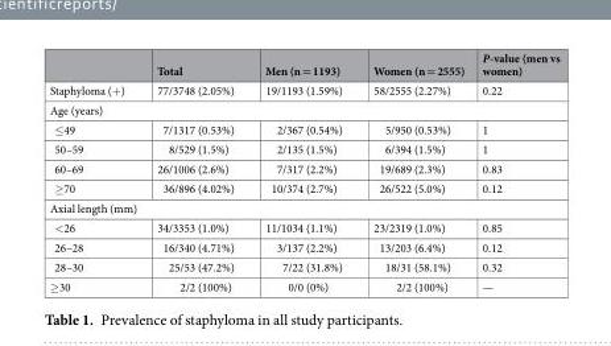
<table><thead><tr><td></td><td>Total</td><td>Men (n = 1193)</td><td>Women (n = 2555)</td><td>P-value (men vs women)</td></tr></thead><tbody><tr><td>Staphyloma (+)</td><td>77/3748 (2.05%)</td><td>19/1193 (1.59%)</td><td>58/2555 (2.27%)</td><td>0.22</td></tr><tr><td colspan="5">Age (years)</td></tr><tr><td>≤49</td><td>7/1317 (0.53%)</td><td>2/367 (0.54%)</td><td>5/950 (0.53%)</td><td>1</td></tr><tr><td>50–59</td><td>8/529 (1.5%)</td><td>2/135 (1.5%)</td><td>6/394 (1.5%)</td><td>1</td></tr><tr><td>60–69</td><td>26/1006 (2.6%)</td><td>7/317 (2.2%)</td><td>19/689 (2.3%)</td><td>0.83</td></tr><tr><td>≥70</td><td>36/896 (4.02%)</td><td>10/374 (2.7%)</td><td>26/522 (5.0%)</td><td>0.12</td></tr><tr><td colspan="5">Axial length (mm)</td></tr><tr><td>&lt;26</td><td>34/3353 (1.0%)</td><td>11/1034 (1.1%)</td><td>23/2319 (1.0%)</td><td>0.85</td></tr><tr><td>26–28</td><td>16/340 (4.71%)</td><td>3/137 (2.2%)</td><td>13/203 (6.4%)</td><td>0.12</td></tr><tr><td>28–30</td><td>25/53 (47.2%)</td><td>7/22 (31.8%)</td><td>18/31 (58.1%)</td><td>0.32</td></tr><tr><td>≥30</td><td>2/2 (100%)</td><td>0/0 (0%)</td><td>2/2 (100%)</td><td>—</td></tr></tbody></table>